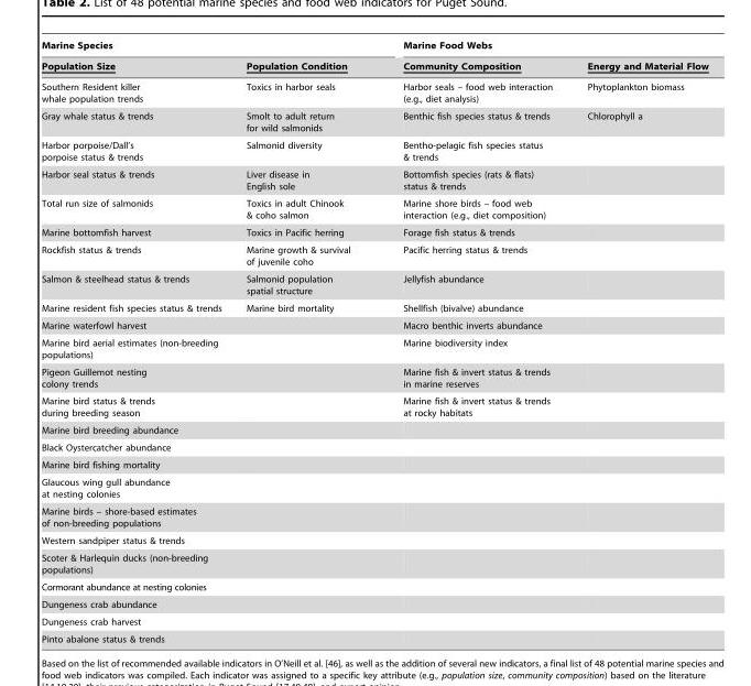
<table><thead><tr><td colspan="2">Marine Species</td><td colspan="2">Marine Food Webs</td></tr><tr><td>Population Size</td><td>Population Condition</td><td>Community Composition</td><td>Energy and Material Flow</td></tr></thead><tbody><tr><td>Southern Resident killer whale population trends</td><td>Toxics in harbor seals</td><td>Harbor seals – food web interaction (e.g., diet analysis)</td><td>Phytoplankton biomass</td></tr><tr><td>Gray whale status &amp; trends</td><td>Smolt to adult return for wild salmonids</td><td>Benthic fish species status &amp; trends</td><td>Chlorophyll a</td></tr><tr><td>Harbor porpoise/Dall’s porpoise status &amp; trends</td><td>Salmonid diversity</td><td>Bentho-pelagic fish species status &amp; trends</td><td></td></tr><tr><td>Harbor seal status &amp; trends</td><td>Liver disease in English sole</td><td>Bottomfish species (rats &amp; flats) status &amp; trends</td><td></td></tr><tr><td>Total run size of salmonids</td><td>Toxics in adult Chinook &amp; coho salmon</td><td>Marine shore birds – food web interaction (e.g., diet composition)</td><td></td></tr><tr><td>Marine bottomfish harvest</td><td>Toxics in Pacific herring</td><td>Forage fish status &amp; trends</td><td></td></tr><tr><td>Rockfish status &amp; trends</td><td>Marine growth &amp; survival of juvenile coho</td><td>Pacific herring status &amp; trends</td><td></td></tr><tr><td>Salmon &amp; steelhead status &amp; trends</td><td>Salmonid population spatial structure</td><td>Jellyfish abundance</td><td></td></tr><tr><td>Marine resident fish species status &amp; trends</td><td>Marine bird mortality</td><td>Shellfish (bivalve) abundance</td><td></td></tr><tr><td>Marine waterfowl harvest</td><td></td><td>Macro benthic inverts abundance</td><td></td></tr><tr><td>Marine bird aerial estimates (non-breeding populations)</td><td></td><td>Marine biodiversity index</td><td></td></tr><tr><td>Pigeon Guillemot nesting colony trends</td><td></td><td>Marine fish &amp; invert status &amp; trends in marine reserves</td><td></td></tr><tr><td>Marine bird status &amp; trends during breeding season</td><td></td><td>Marine fish &amp; invert status &amp; trends at rocky habitats</td><td></td></tr><tr><td colspan="4">Marine bird breeding abundance</td></tr><tr><td colspan="4">Black Oystercatcher abundance</td></tr><tr><td colspan="4">Marine bird fishing mortality</td></tr><tr><td colspan="4">Glaucous wing gull abundance at nesting colonies</td></tr><tr><td colspan="4">Marine birds – shore-based estimates of non-breeding populations</td></tr><tr><td colspan="4">Western sandpiper status &amp; trends</td></tr><tr><td colspan="4">Scoter &amp; Harlequin ducks (non-breeding populations)</td></tr><tr><td colspan="4">Cormorant abundance at nesting colonies</td></tr><tr><td colspan="4">Dungeness crab abundance</td></tr><tr><td colspan="4">Dungeness crab harvest</td></tr><tr><td>Pinto abalone status &amp; trends</td><td></td><td></td><td></td></tr></tbody></table>